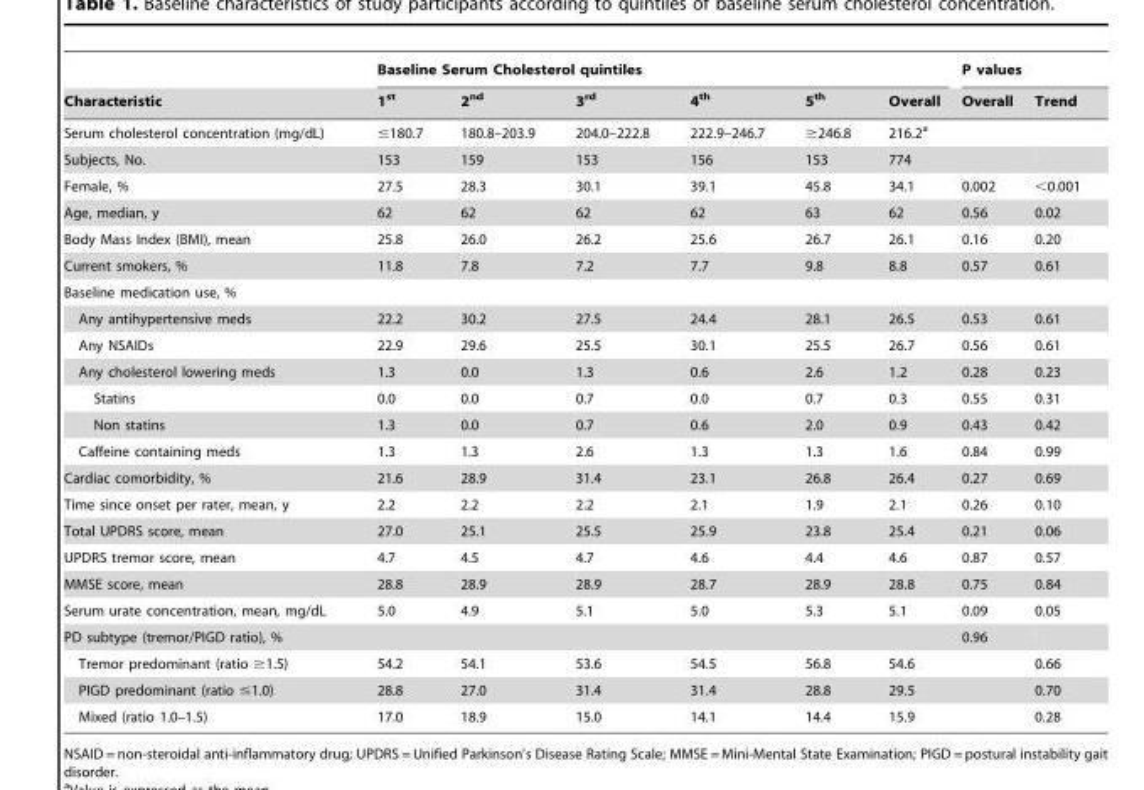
<table><thead><tr><td rowspan="2">Characteristic</td><td colspan="6">Baseline Serum Cholesterol quintiles</td><td colspan="2">P values</td></tr><tr><td>1<sup>st</sup></td><td>2<sup>nd</sup></td><td>3<sup>rd</sup></td><td>4<sup>th</sup></td><td>5<sup>th</sup></td><td>Overall</td><td>Overall</td><td>Trend</td></tr></thead><tbody><tr><td>Serum cholesterol concentration (mg/dL)</td><td>≤180.7</td><td>180.8–203.9</td><td>204.0–222.8</td><td>222.9–246.7</td><td>≥246.8</td><td>216.2<sup>a</sup></td><td></td><td></td></tr><tr><td>Subjects, No.</td><td>153</td><td>159</td><td>153</td><td>156</td><td>153</td><td>774</td><td></td><td></td></tr><tr><td>Female, %</td><td>27.5</td><td>28.3</td><td>30.1</td><td>39.1</td><td>45.8</td><td>34.1</td><td>0.002</td><td>&lt;0.001</td></tr><tr><td>Age, median, y</td><td>62</td><td>62</td><td>62</td><td>62</td><td>63</td><td>62</td><td>0.56</td><td>0.02</td></tr><tr><td>Body Mass Index (BMI), mean</td><td>25.8</td><td>26.0</td><td>26.2</td><td>25.6</td><td>26.7</td><td>26.1</td><td>0.16</td><td>0.20</td></tr><tr><td>Current smokers, %</td><td>11.8</td><td>7.8</td><td>7.2</td><td>7.7</td><td>9.8</td><td>8.8</td><td>0.57</td><td>0.61</td></tr><tr><td colspan="9">Baseline medication use, %</td></tr><tr><td>Any antihypertensive meds</td><td>22.2</td><td>30.2</td><td>27.5</td><td>24.4</td><td>28.1</td><td>26.5</td><td>0.53</td><td>0.61</td></tr><tr><td>Any NSAIDs</td><td>22.9</td><td>29.6</td><td>25.5</td><td>30.1</td><td>25.5</td><td>26.7</td><td>0.56</td><td>0.61</td></tr><tr><td>Any cholesterol lowering meds</td><td>1.3</td><td>0.0</td><td>1.3</td><td>0.6</td><td>2.6</td><td>1.2</td><td>0.28</td><td>0.23</td></tr><tr><td>Statins</td><td>0.0</td><td>0.0</td><td>0.7</td><td>0.0</td><td>0.7</td><td>0.3</td><td>0.55</td><td>0.31</td></tr><tr><td>Non statins</td><td>1.3</td><td>0.0</td><td>0.7</td><td>0.6</td><td>2.0</td><td>0.9</td><td>0.43</td><td>0.42</td></tr><tr><td>Caffeine containing meds</td><td>1.3</td><td>1.3</td><td>2.6</td><td>1.3</td><td>1.3</td><td>1.6</td><td>0.84</td><td>0.99</td></tr><tr><td>Cardiac comorbidity, %</td><td>21.6</td><td>28.9</td><td>31.4</td><td>23.1</td><td>26.8</td><td>26.4</td><td>0.27</td><td>0.69</td></tr><tr><td>Time since onset per rater, mean, y</td><td>2.2</td><td>2.2</td><td>2.2</td><td>2.1</td><td>1.9</td><td>2.1</td><td>0.26</td><td>0.10</td></tr><tr><td>Total UPDRS score, mean</td><td>27.0</td><td>25.1</td><td>25.5</td><td>25.9</td><td>23.8</td><td>25.4</td><td>0.21</td><td>0.06</td></tr><tr><td>UPDRS tremor score, mean</td><td>4.7</td><td>4.5</td><td>4.7</td><td>4.6</td><td>4.4</td><td>4.6</td><td>0.87</td><td>0.57</td></tr><tr><td>MMSE score, mean</td><td>28.8</td><td>28.9</td><td>28.9</td><td>28.7</td><td>28.9</td><td>28.8</td><td>0.75</td><td>0.84</td></tr><tr><td>Serum urate concentration, mean, mg/dL</td><td>5.0</td><td>4.9</td><td>5.1</td><td>5.0</td><td>5.3</td><td>5.1</td><td>0.09</td><td>0.05</td></tr><tr><td colspan="7">PD subtype (tremor/PIGD ratio), %</td><td>0.96</td><td></td></tr><tr><td>Tremor predominant (ratio ≥1.5)</td><td>54.2</td><td>54.1</td><td>53.6</td><td>54.5</td><td>56.8</td><td>54.6</td><td></td><td>0.66</td></tr><tr><td>PIGD predominant (ratio ≤1.0)</td><td>28.8</td><td>27.0</td><td>31.4</td><td>31.4</td><td>28.8</td><td>29.5</td><td></td><td>0.70</td></tr><tr><td>Mixed (ratio 1.0–1.5)</td><td>17.0</td><td>18.9</td><td>15.0</td><td>14.1</td><td>14.4</td><td>15.9</td><td></td><td>0.28</td></tr></tbody></table>